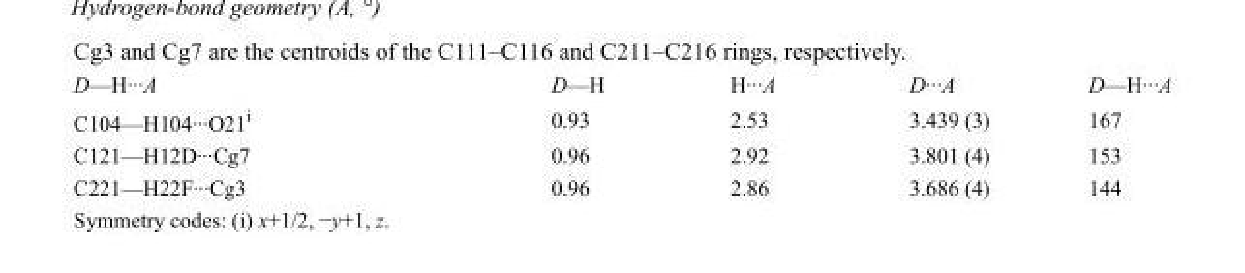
<table><tbody><tr><td>D—H···A</td><td>D—H</td><td>H···A</td><td>D···A</td><td>D—H···A</td></tr><tr><td>C104—H104···O21<sup>i</sup></td><td>0.93</td><td>2.53</td><td>3.439 (3)</td><td>167</td></tr><tr><td>C121—H12D···Cg7</td><td>0.96</td><td>2.92</td><td>3.801 (4)</td><td>153</td></tr><tr><td>C221—H22F···Cg3</td><td>0.96</td><td>2.86</td><td>3.686 (4)</td><td>144</td></tr></tbody></table>